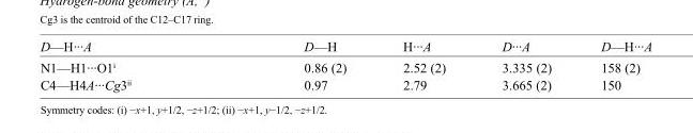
<table><tbody><tr><td>D—H···A</td><td>D—H</td><td>H···A</td><td>D···A</td><td>D—H···A</td></tr><tr><td>N1—H1···O1<sup>i</sup></td><td>0.86 (2)</td><td>2.52 (2)</td><td>3.335 (2)</td><td>158 (2)</td></tr><tr><td>C4—H4A···Cg3<sup>ii</sup></td><td>0.97</td><td>2.79</td><td>3.665 (2)</td><td>150</td></tr></tbody></table>